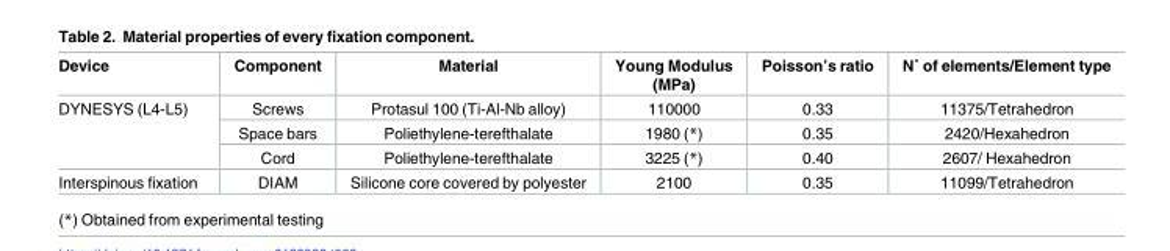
<table><thead><tr><td>Device</td><td>Component</td><td>Material</td><td>Young Modulus (MPa)</td><td>Poisson’s ratio</td><td>N˚ of elements/Element type</td></tr></thead><tbody><tr><td rowspan="3">DYNESYS (L4-L5)</td><td>Screws</td><td>Protasul 100 (Ti-Al-Nb alloy)</td><td>110000</td><td>0.33</td><td>11375/Tetrahedron</td></tr><tr><td>Space bars</td><td>Poliethylene-terefthalate</td><td>1980 (*)</td><td>0.35</td><td>2420/Hexahedron</td></tr><tr><td>Cord</td><td>Poliethylene-terefthalate</td><td>3225 (*)</td><td>0.40</td><td>2607/ Hexahedron</td></tr><tr><td>Interspinous fixation</td><td>DIAM</td><td>Silicone core covered by polyester</td><td>2100</td><td>0.35</td><td>11099/Tetrahedron</td></tr></tbody></table>